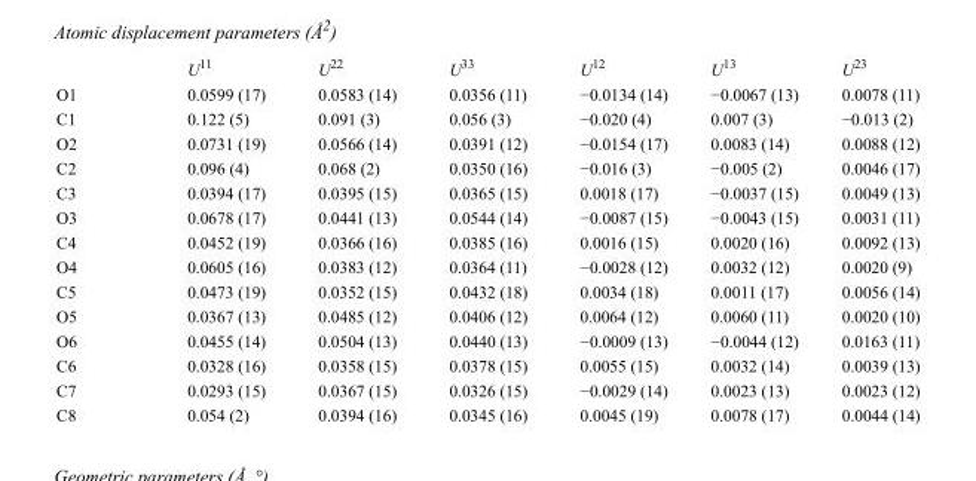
<table><thead><tr><td></td><td>U<sup>11</sup></td><td>U<sup>22</sup></td><td>U<sup>33</sup></td><td>U<sup>12</sup></td><td>U<sup>13</sup></td><td>U<sup>23</sup></td></tr></thead><tbody><tr><td>O1</td><td>0.0599 (17)</td><td>0.0583 (14)</td><td>0.0356 (11)</td><td>−0.0134 (14)</td><td>−0.0067 (13)</td><td>0.0078 (11)</td></tr><tr><td>C1</td><td>0.122 (5)</td><td>0.091 (3)</td><td>0.056 (3)</td><td>−0.020 (4)</td><td>0.007 (3)</td><td>−0.013 (2)</td></tr><tr><td>O2</td><td>0.0731 (19)</td><td>0.0566 (14)</td><td>0.0391 (12)</td><td>−0.0154 (17)</td><td>0.0083 (14)</td><td>0.0088 (12)</td></tr><tr><td>C2</td><td>0.096 (4)</td><td>0.068 (2)</td><td>0.0350 (16)</td><td>−0.016 (3)</td><td>−0.005 (2)</td><td>0.0046 (17)</td></tr><tr><td>C3</td><td>0.0394 (17)</td><td>0.0395 (15)</td><td>0.0365 (15)</td><td>0.0018 (17)</td><td>−0.0037 (15)</td><td>0.0049 (13)</td></tr><tr><td>O3</td><td>0.0678 (17)</td><td>0.0441 (13)</td><td>0.0544 (14)</td><td>−0.0087 (15)</td><td>−0.0043 (15)</td><td>0.0031 (11)</td></tr><tr><td>C4</td><td>0.0452 (19)</td><td>0.0366 (16)</td><td>0.0385 (16)</td><td>0.0016 (15)</td><td>0.0020 (16)</td><td>0.0092 (13)</td></tr><tr><td>O4</td><td>0.0605 (16)</td><td>0.0383 (12)</td><td>0.0364 (11)</td><td>−0.0028 (12)</td><td>0.0032 (12)</td><td>0.0020 (9)</td></tr><tr><td>C5</td><td>0.0473 (19)</td><td>0.0352 (15)</td><td>0.0432 (18)</td><td>0.0034 (18)</td><td>0.0011 (17)</td><td>0.0056 (14)</td></tr><tr><td>O5</td><td>0.0367 (13)</td><td>0.0485 (12)</td><td>0.0406 (12)</td><td>0.0064 (12)</td><td>0.0060 (11)</td><td>0.0020 (10)</td></tr><tr><td>O6</td><td>0.0455 (14)</td><td>0.0504 (13)</td><td>0.0440 (13)</td><td>−0.0009 (13)</td><td>−0.0044 (12)</td><td>0.0163 (11)</td></tr><tr><td>C6</td><td>0.0328 (16)</td><td>0.0358 (15)</td><td>0.0378 (15)</td><td>0.0055 (15)</td><td>0.0032 (14)</td><td>0.0039 (13)</td></tr><tr><td>C7</td><td>0.0293 (15)</td><td>0.0367 (15)</td><td>0.0326 (15)</td><td>−0.0029 (14)</td><td>0.0023 (13)</td><td>0.0023 (12)</td></tr><tr><td>C8</td><td>0.054 (2)</td><td>0.0394 (16)</td><td>0.0345 (16)</td><td>0.0045 (19)</td><td>0.0078 (17)</td><td>0.0044 (14)</td></tr></tbody></table>